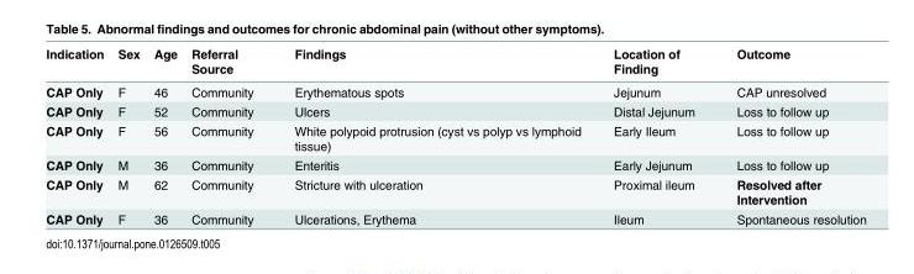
<table><thead><tr><td>Indication</td><td>Sex</td><td>Age</td><td>Referral Source</td><td>Findings</td><td>Location of Finding</td><td>Outcome</td></tr></thead><tbody><tr><td>CAP Only</td><td>F</td><td>46</td><td>Community</td><td>Erythematous spots</td><td>Jejunum</td><td>CAP unresolved</td></tr><tr><td>CAP Only</td><td>F</td><td>52</td><td>Community</td><td>Ulcers</td><td>Distal Jejunum</td><td>Loss to follow up</td></tr><tr><td>CAP Only</td><td>F</td><td>56</td><td>Community</td><td>White polypoid protrusion (cyst vs polyp vs lymphoid tissue)</td><td>Early Ileum</td><td>Loss to follow up</td></tr><tr><td>CAP Only</td><td>M</td><td>36</td><td>Community</td><td>Enteritis</td><td>Early Jejunum</td><td>Loss to follow up</td></tr><tr><td>CAP Only</td><td>M</td><td>62</td><td>Community</td><td>Stricture with ulceration</td><td>Proximal ileum</td><td>Resolved after Intervention</td></tr><tr><td>CAP Only</td><td>F</td><td>36</td><td>Community</td><td>Ulcerations, Erythema</td><td>Ileum</td><td>Spontaneous resolution</td></tr></tbody></table>